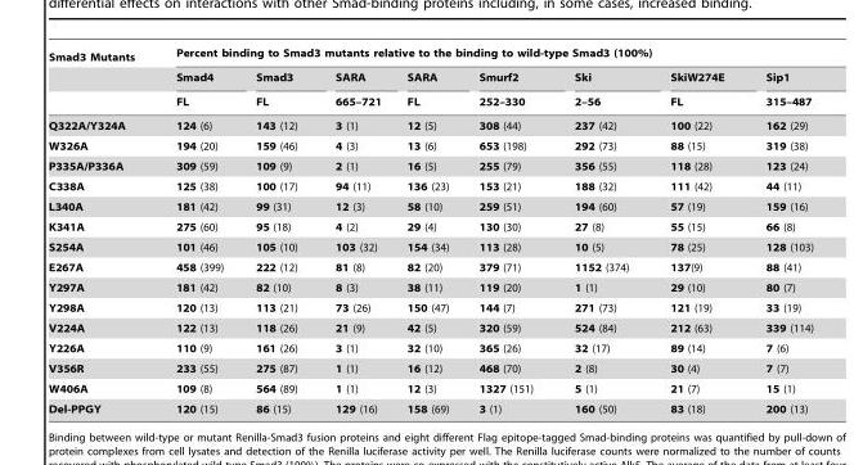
<table><thead><tr><td rowspan="3">Smad3 Mutants</td><td colspan="8">Percent binding to Smad3 mutants relative to the binding to wild-type Smad3 (100%)</td></tr><tr><td rowspan="2">Smad4 FL</td><td rowspan="2">Smad3 FL</td><td rowspan="2">SARA 665–721</td><td rowspan="2">SARA FL</td><td rowspan="2">Smurf2 252–330</td><td rowspan="2">Ski 2–56</td><td rowspan="2">SkiW274E FL</td><td rowspan="2">Sip1 315–487</td></tr><tr></tr></thead><tbody><tr><td>Q322A/Y324A</td><td>124 (6)</td><td>143 (12)</td><td>3 (1)</td><td>12 (5)</td><td>308 (44)</td><td>237 (42)</td><td>100 (22)</td><td>162 (29)</td></tr><tr><td>W326A</td><td>194 (20)</td><td>159 (46)</td><td>4 (3)</td><td>13 (6)</td><td>653 (198)</td><td>292 (73)</td><td>88 (15)</td><td>319 (38)</td></tr><tr><td>P335A/P336A</td><td>309 (59)</td><td>109 (9)</td><td>2 (1)</td><td>16 (5)</td><td>255 (79)</td><td>356 (55)</td><td>118 (28)</td><td>123 (24)</td></tr><tr><td>C338A</td><td>125 (38)</td><td>100 (17)</td><td>94 (11)</td><td>136 (23)</td><td>153 (21)</td><td>188 (32)</td><td>111 (42)</td><td>44 (11)</td></tr><tr><td>L340A</td><td>181 (42)</td><td>99 (31)</td><td>12 (3)</td><td>58 (10)</td><td>259 (51)</td><td>194 (60)</td><td>57 (19)</td><td>159 (16)</td></tr><tr><td>K341A</td><td>275 (60)</td><td>95 (18)</td><td>4 (2)</td><td>29 (4)</td><td>130 (30)</td><td>27 (8)</td><td>55 (15)</td><td>66 (8)</td></tr><tr><td>S254A</td><td>101 (46)</td><td>105 (10)</td><td>103 (32)</td><td>154 (34)</td><td>113 (28)</td><td>10 (5)</td><td>78 (25)</td><td>128 (103)</td></tr><tr><td>E267A</td><td>458 (399)</td><td>222 (12)</td><td>81 (8)</td><td>82 (20)</td><td>379 (71)</td><td>1152 (374)</td><td>137(9)</td><td>88 (41)</td></tr><tr><td>Y297A</td><td>181 (42)</td><td>82 (10)</td><td>8 (3)</td><td>38 (11)</td><td>119 (20)</td><td>1 (1)</td><td>29 (10)</td><td>80 (7)</td></tr><tr><td>Y298A</td><td>120 (13)</td><td>113 (21)</td><td>73 (26)</td><td>150 (47)</td><td>144 (7)</td><td>271 (73)</td><td>121 (19)</td><td>33 (19)</td></tr><tr><td>V224A</td><td>122 (13)</td><td>118 (26)</td><td>21 (9)</td><td>42 (5)</td><td>320 (59)</td><td>524 (84)</td><td>212 (63)</td><td>339 (114)</td></tr><tr><td>Y226A</td><td>110 (9)</td><td>161 (26)</td><td>3 (1)</td><td>32 (10)</td><td>365 (26)</td><td>32 (17)</td><td>89 (14)</td><td>7 (6)</td></tr><tr><td>V356R</td><td>233 (55)</td><td>275 (87)</td><td>1 (1)</td><td>16 (12)</td><td>468 (70)</td><td>2 (8)</td><td>30 (4)</td><td>7 (7)</td></tr><tr><td>W406A</td><td>109 (8)</td><td>564 (89)</td><td>1 (1)</td><td>12 (3)</td><td>1327 (151)</td><td>5 (1)</td><td>21 (7)</td><td>15 (1)</td></tr><tr><td>Del-PPGY</td><td>120 (15)</td><td>86 (15)</td><td>129 (16)</td><td>158 (69)</td><td>3 (1)</td><td>160 (50)</td><td>83 (18)</td><td>200 (13)</td></tr></tbody></table>